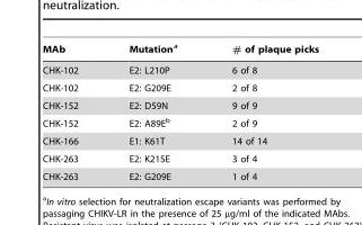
<table><thead><tr><td>MAb</td><td>Mutation<sup>a</sup></td><td># of plaque picks</td></tr></thead><tbody><tr><td>CHK-102</td><td>E2: L210P</td><td>6 of 8</td></tr><tr><td>CHK-102</td><td>E2: G209E</td><td>2 of 8</td></tr><tr><td>CHK-152</td><td>E2: D59N</td><td>9 of 9</td></tr><tr><td>CHK-152</td><td>E2: A89E<sup>b</sup></td><td>2 of 9</td></tr><tr><td>CHK-166</td><td>E1: K61T</td><td>14 of 14</td></tr><tr><td>CHK-263</td><td>E2: K215E</td><td>3 of 4</td></tr><tr><td>CHK-263</td><td>E2: G209E</td><td>1 of 4</td></tr></tbody></table>